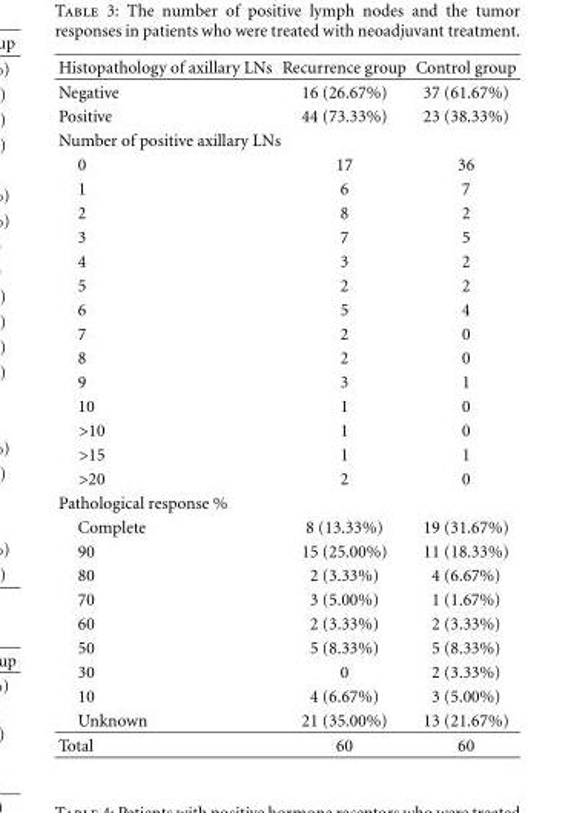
<table><thead><tr><td>Histopathology of axillary LNs</td><td>Recurrence group</td><td>Control group</td></tr></thead><tbody><tr><td>Negative</td><td>16 (26.67%)</td><td>37 (61.67%)</td></tr><tr><td>Positive</td><td>44 (73.33%)</td><td>23 (38.33%)</td></tr><tr><td colspan="3">Number of positive axillary LNs</td></tr><tr><td>0</td><td>17</td><td>36</td></tr><tr><td>1</td><td>6</td><td>7</td></tr><tr><td>2</td><td>8</td><td>2</td></tr><tr><td>3</td><td>7</td><td>5</td></tr><tr><td>4</td><td>3</td><td>2</td></tr><tr><td>5</td><td>2</td><td>2</td></tr><tr><td>6</td><td>5</td><td>4</td></tr><tr><td>7</td><td>2</td><td>0</td></tr><tr><td>8</td><td>2</td><td>0</td></tr><tr><td>9</td><td>3</td><td>1</td></tr><tr><td>10</td><td>1</td><td>0</td></tr><tr><td>&gt;10</td><td>1</td><td>0</td></tr><tr><td>&gt;15</td><td>1</td><td>1</td></tr><tr><td>&gt;20</td><td>2</td><td>0</td></tr><tr><td colspan="3">Pathological response %</td></tr><tr><td>Complete</td><td>8 (13.33%)</td><td>19 (31.67%)</td></tr><tr><td>90</td><td>15 (25.00%)</td><td>11 (18.33%)</td></tr><tr><td>80</td><td>2 (3.33%)</td><td>4 (6.67%)</td></tr><tr><td>70</td><td>3 (5.00%)</td><td>1 (1.67%)</td></tr><tr><td>60</td><td>2 (3.33%)</td><td>2 (3.33%)</td></tr><tr><td>50</td><td>5 (8.33%)</td><td>5 (8.33%)</td></tr><tr><td>30</td><td>0</td><td>2 (3.33%)</td></tr><tr><td>10</td><td>4 (6.67%)</td><td>3 (5.00%)</td></tr><tr><td>Unknown</td><td>21 (35.00%)</td><td>13 (21.67%)</td></tr><tr><td>Total</td><td>60</td><td>60</td></tr></tbody></table>